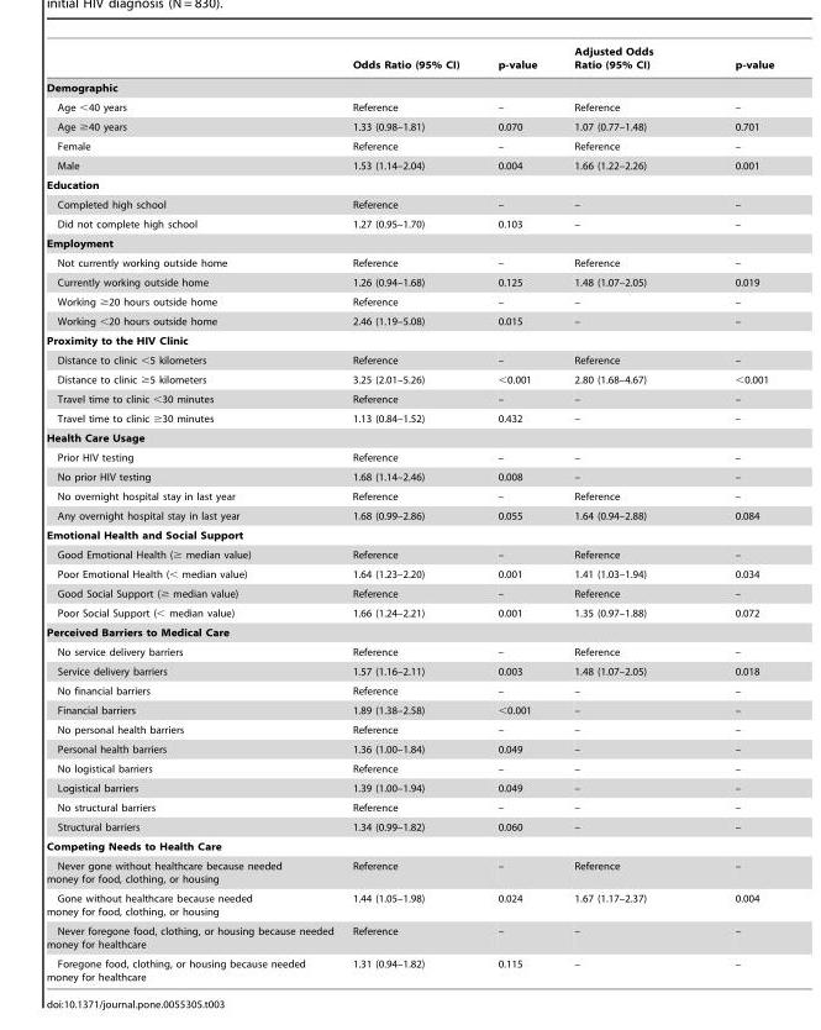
<table><thead><tr><td></td><td>Odds Ratio (95% CI)</td><td>p-value</td><td>Adjusted Odds Ratio (95% CI)</td><td>p-value</td></tr></thead><tbody><tr><td colspan="5">Demographic</td></tr><tr><td>Age &lt;40 years</td><td>Reference</td><td>–</td><td>Reference</td><td>–</td></tr><tr><td>Age ≥40 years</td><td>1.33 (0.98–1.81)</td><td>0.070</td><td>1.07 (0.77–1.48)</td><td>0.701</td></tr><tr><td>Female</td><td>Reference</td><td>–</td><td>Reference</td><td>–</td></tr><tr><td>Male</td><td>1.53 (1.14–2.04)</td><td>0.004</td><td>1.66 (1.22–2.26)</td><td>0.001</td></tr><tr><td colspan="5">Education</td></tr><tr><td>Completed high school</td><td>Reference</td><td>–</td><td>–</td><td>–</td></tr><tr><td>Did not complete high school</td><td>1.27 (0.95–1.70)</td><td>0.103</td><td>–</td><td>–</td></tr><tr><td colspan="5">Employment</td></tr><tr><td>Not currently working outside home</td><td>Reference</td><td>–</td><td>Reference</td><td>–</td></tr><tr><td>Currently working outside home</td><td>1.26 (0.94–1.68)</td><td>0.125</td><td>1.48 (1.07–2.05)</td><td>0.019</td></tr><tr><td>Working ≥20 hours outside home</td><td>Reference</td><td>–</td><td>–</td><td>–</td></tr><tr><td>Working &lt;20 hours outside home</td><td>2.46 (1.19–5.08)</td><td>0.015</td><td>–</td><td>–</td></tr><tr><td colspan="5">Proximity to the HIV Clinic</td></tr><tr><td>Distance to clinic &lt;5 kilometers</td><td>Reference</td><td>–</td><td>Reference</td><td>–</td></tr><tr><td>Distance to clinic ≥5 kilometers</td><td>3.25 (2.01–5.26)</td><td>&lt;0.001</td><td>2.80 (1.68–4.67)</td><td>&lt;0.001</td></tr><tr><td>Travel time to clinic &lt;30 minutes</td><td>Reference</td><td>–</td><td>–</td><td>–</td></tr><tr><td>Travel time to clinic ≥30 minutes</td><td>1.13 (0.84–1.52)</td><td>0.432</td><td>–</td><td>–</td></tr><tr><td colspan="5">Health Care Usage</td></tr><tr><td>Prior HIV testing</td><td>Reference</td><td>–</td><td>–</td><td>–</td></tr><tr><td>No prior HIV testing</td><td>1.68 (1.14–2.46)</td><td>0.008</td><td>–</td><td>–</td></tr><tr><td>No overnight hospital stay in last year</td><td>Reference</td><td>–</td><td>Reference</td><td>–</td></tr><tr><td>Any overnight hospital stay in last year</td><td>1.68 (0.99–2.86)</td><td>0.055</td><td>1.64 (0.94–2.88)</td><td>0.084</td></tr><tr><td colspan="5">Emotional Health and Social Support</td></tr><tr><td>Good Emotional Health (≥ median value)</td><td>Reference</td><td>–</td><td>Reference</td><td>–</td></tr><tr><td>Poor Emotional Health (&lt; median value)</td><td>1.64 (1.23–2.20)</td><td>0.001</td><td>1.41 (1.03–1.94)</td><td>0.034</td></tr><tr><td>Good Social Support (≥ median value)</td><td>Reference</td><td>–</td><td>Reference</td><td>–</td></tr><tr><td>Poor Social Support (&lt; median value)</td><td>1.66 (1.24–2.21)</td><td>0.001</td><td>1.35 (0.97–1.88)</td><td>0.072</td></tr><tr><td colspan="5">Perceived Barriers to Medical Care</td></tr><tr><td>No service delivery barriers</td><td>Reference</td><td>–</td><td>Reference</td><td>–</td></tr><tr><td>Service delivery barriers</td><td>1.57 (1.16–2.11)</td><td>0.003</td><td>1.48 (1.07–2.05)</td><td>0.018</td></tr><tr><td>No financial barriers</td><td>Reference</td><td>–</td><td>–</td><td>–</td></tr><tr><td>Financial barriers</td><td>1.89 (1.38–2.58)</td><td>&lt;0.001</td><td>–</td><td>–</td></tr><tr><td>No personal health barriers</td><td>Reference</td><td>–</td><td>–</td><td>–</td></tr><tr><td>Personal health barriers</td><td>1.36 (1.00–1.84)</td><td>0.049</td><td>–</td><td>–</td></tr><tr><td>No logistical barriers</td><td>Reference</td><td>–</td><td>–</td><td>–</td></tr><tr><td>Logistical barriers</td><td>1.39 (1.00–1.94)</td><td>0.049</td><td>–</td><td>–</td></tr><tr><td>No structural barriers</td><td>Reference</td><td>–</td><td>–</td><td>–</td></tr><tr><td>Structural barriers</td><td>1.34 (0.99–1.82)</td><td>0.060</td><td>–</td><td>–</td></tr><tr><td colspan="5">Competing Needs to Health Care</td></tr><tr><td>Never gone without healthcare because needed money for food, clothing, or housing</td><td>Reference</td><td>–</td><td>Reference</td><td>–</td></tr><tr><td>Gone without healthcare because needed money for food, clothing, or housing</td><td>1.44 (1.05–1.98)</td><td>0.024</td><td>1.67 (1.17–2.37)</td><td>0.004</td></tr><tr><td>Never foregone food, clothing, or housing because needed money for healthcare</td><td>Reference</td><td>–</td><td>–</td><td>–</td></tr><tr><td>Foregone food, clothing, or housing because needed money for healthcare</td><td>1.31 (0.94–1.82)</td><td>0.115</td><td>–</td><td>–</td></tr></tbody></table>